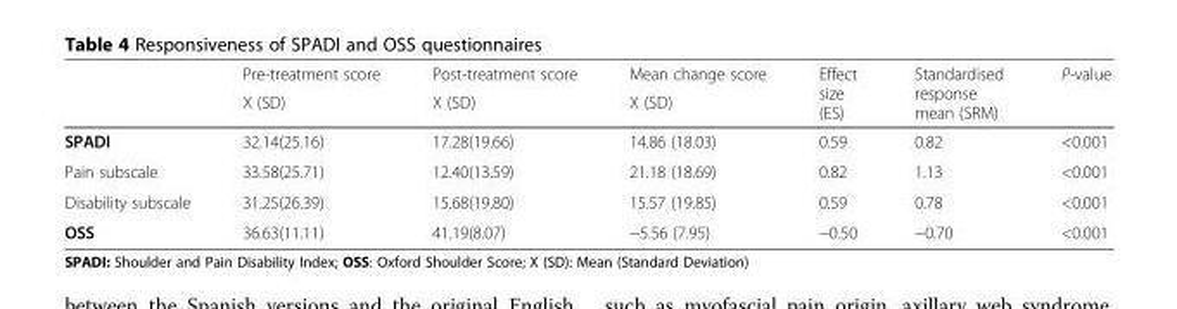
<table><thead><tr><td rowspan="2"></td><td rowspan="2">Pre-treatment score X (SD)</td><td rowspan="2">Post-treatment score X (SD)</td><td rowspan="2">Mean change score X (SD)</td><td rowspan="2">Effect size (ES)</td><td rowspan="2">Standardised response mean (SRM)</td><td rowspan="2">P-value</td></tr><tr></tr></thead><tbody><tr><td>SPADI</td><td>32.14(25.16)</td><td>17.28(19.66)</td><td>14.86 (18.03)</td><td>0.59</td><td>0.82</td><td>&lt;0.001</td></tr><tr><td>Pain subscale</td><td>33.58(25.71)</td><td>12.40(13.59)</td><td>21.18 (18.69)</td><td>0.82</td><td>1.13</td><td>&lt;0.001</td></tr><tr><td>Disability subscale</td><td>31.25(26.39)</td><td>15.68(19.80)</td><td>15.57 (19.85)</td><td>0.59</td><td>0.78</td><td>&lt;0.001</td></tr><tr><td>OSS</td><td>36.63(11.11)</td><td>41.19(8.07)</td><td>−5.56 (7.95)</td><td>−0.50</td><td>−0.70</td><td>&lt;0.001</td></tr></tbody></table>